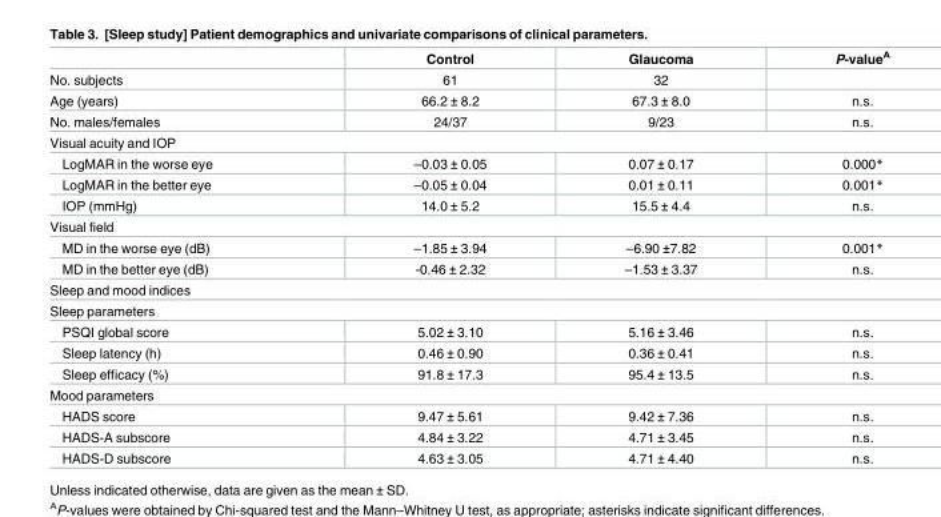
<table><thead><tr><td></td><td>Control</td><td>Glaucoma</td><td>P-value<sup>A</sup></td></tr></thead><tbody><tr><td>No. subjects</td><td>61</td><td>32</td><td></td></tr><tr><td>Age (years)</td><td>66.2 ± 8.2</td><td>67.3 ± 8.0</td><td>n.s.</td></tr><tr><td>No. males/females</td><td>24/37</td><td>9/23</td><td>n.s.</td></tr><tr><td colspan="4">Visual acuity and IOP</td></tr><tr><td>LogMAR in the worse eye</td><td>–0.03 ± 0.05</td><td>0.07 ± 0.17</td><td>0.000*</td></tr><tr><td>LogMAR in the better eye</td><td>–0.05 ± 0.04</td><td>0.01 ± 0.11</td><td>0.001*</td></tr><tr><td>IOP (mmHg)</td><td>14.0 ± 5.2</td><td>15.5 ± 4.4</td><td>n.s.</td></tr><tr><td colspan="4">Visual field</td></tr><tr><td>MD in the worse eye (dB)</td><td>–1.85 ± 3.94</td><td>–6.90 ±7.82</td><td>0.001*</td></tr><tr><td>MD in the better eye (dB)</td><td>-0.46 ± 2.32</td><td>–1.53 ± 3.37</td><td>n.s.</td></tr><tr><td colspan="4">Sleep and mood indices</td></tr><tr><td colspan="4">Sleep parameters</td></tr><tr><td>PSQI global score</td><td>5.02 ± 3.10</td><td>5.16 ± 3.46</td><td>n.s.</td></tr><tr><td>Sleep latency (h)</td><td>0.46 ± 0.90</td><td>0.36 ± 0.41</td><td>n.s.</td></tr><tr><td>Sleep efficacy (%)</td><td>91.8 ± 17.3</td><td>95.4 ± 13.5</td><td>n.s.</td></tr><tr><td colspan="4">Mood parameters</td></tr><tr><td>HADS score</td><td>9.47 ± 5.61</td><td>9.42 ± 7.36</td><td>n.s.</td></tr><tr><td>HADS-A subscore</td><td>4.84 ± 3.22</td><td>4.71 ± 3.45</td><td>n.s.</td></tr><tr><td>HADS-D subscore</td><td>4.63 ± 3.05</td><td>4.71 ± 4.40</td><td>n.s.</td></tr></tbody></table>